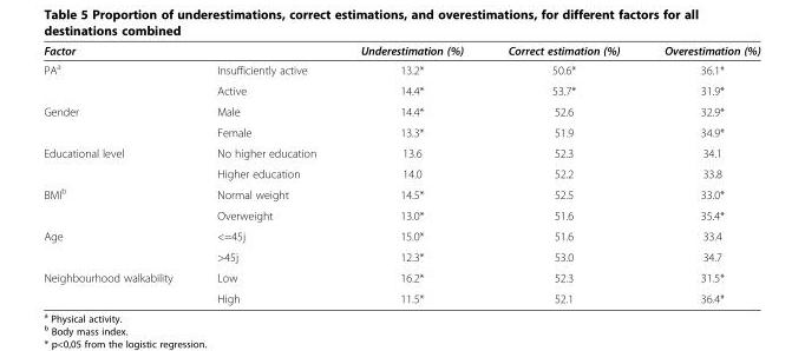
<table><thead><tr><td>Factor</td><td></td><td>Underestimation (%)</td><td>Correct estimation (%)</td><td>Overestimation (%)</td></tr></thead><tbody><tr><td rowspan="2">PA<sup>a</sup></td><td>Insufficiently active</td><td>13.2*</td><td>50.6*</td><td>36.1*</td></tr><tr><td>Active</td><td>14.4*</td><td>53.7*</td><td>31.9*</td></tr><tr><td rowspan="2">Gender</td><td>Male</td><td>14.4*</td><td>52.6</td><td>32.9*</td></tr><tr><td>Female</td><td>13.3*</td><td>51.9</td><td>34.9*</td></tr><tr><td rowspan="2">Educational level</td><td>No higher education</td><td>13.6</td><td>52.3</td><td>34.1</td></tr><tr><td>Higher education</td><td>14.0</td><td>52.2</td><td>33.8</td></tr><tr><td rowspan="2">BMI<sup>b</sup></td><td>Normal weight</td><td>14.5*</td><td>52.5</td><td>33.0*</td></tr><tr><td>Overweight</td><td>13.0*</td><td>51.6</td><td>35.4*</td></tr><tr><td rowspan="2">Age</td><td>&lt;=45j</td><td>15.0*</td><td>51.6</td><td>33.4</td></tr><tr><td>&gt;45j</td><td>12.3*</td><td>53.0</td><td>34.7</td></tr><tr><td rowspan="2">Neighbourhood walkability</td><td>Low</td><td>16.2*</td><td>52.3</td><td>31.5*</td></tr><tr><td>High</td><td>11.5*</td><td>52.1</td><td>36.4*</td></tr></tbody></table>